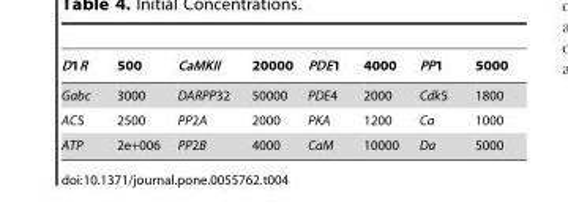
<table><thead><tr><td>D1R</td><td>500</td><td>CaMKII</td><td>20000</td><td>PDE1</td><td>4000</td><td>PP1</td><td>5000</td></tr></thead><tbody><tr><td>Gabc</td><td>3000</td><td>DARPP32</td><td>50000</td><td>PDE4</td><td>2000</td><td>Cdk5</td><td>1800</td></tr><tr><td>AC5</td><td>2500</td><td>PP2A</td><td>2000</td><td>PKA</td><td>1200</td><td>Ca</td><td>1000</td></tr><tr><td>ATP</td><td>2e+006</td><td>PP2B</td><td>4000</td><td>CaM</td><td>10000</td><td>Da</td><td>5000</td></tr></tbody></table>